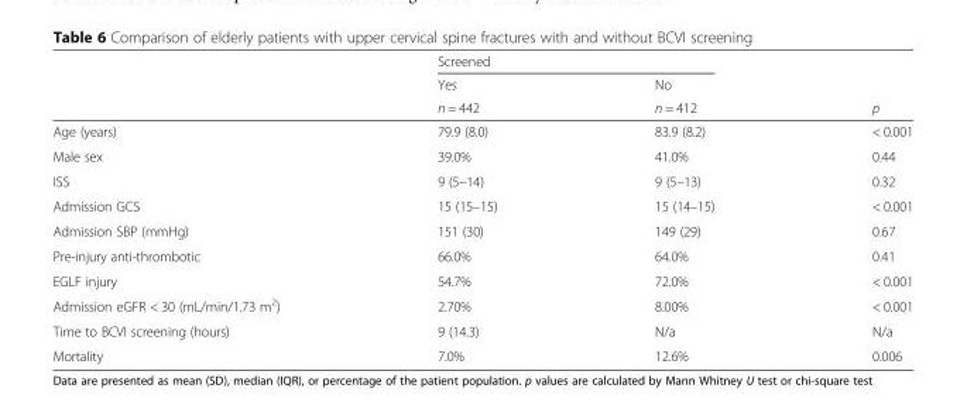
<table><thead><tr><td rowspan="3"></td><td colspan="2">Screened</td><td rowspan="3">p</td></tr><tr><td rowspan="2">Yes n = 442</td><td rowspan="2">No n = 412</td></tr><tr></tr></thead><tbody><tr><td>Age (years)</td><td>79.9 (8.0)</td><td>83.9 (8.2)</td><td>&lt; 0.001</td></tr><tr><td>Male sex</td><td>39.0%</td><td>41.0%</td><td>0.44</td></tr><tr><td>ISS</td><td>9 (5–14)</td><td>9 (5–13)</td><td>0.32</td></tr><tr><td>Admission GCS</td><td>15 (15–15)</td><td>15 (14–15)</td><td>&lt; 0.001</td></tr><tr><td>Admission SBP (mmHg)</td><td>151 (30)</td><td>149 (29)</td><td>0.67</td></tr><tr><td>Pre-injury anti-thrombotic</td><td>66.0%</td><td>64.0%</td><td>0.41</td></tr><tr><td>EGLF injury</td><td>54.7%</td><td>72.0%</td><td>&lt; 0.001</td></tr><tr><td>Admission eGFR &lt; 30 (mL/min/1.73 m<sup>2</sup>)</td><td>2.70%</td><td>8.00%</td><td>&lt; 0.001</td></tr><tr><td>Time to BCVI screening (hours)</td><td>9 (14.3)</td><td>N/a</td><td>N/a</td></tr><tr><td>Mortality</td><td>7.0%</td><td>12.6%</td><td>0.006</td></tr></tbody></table>